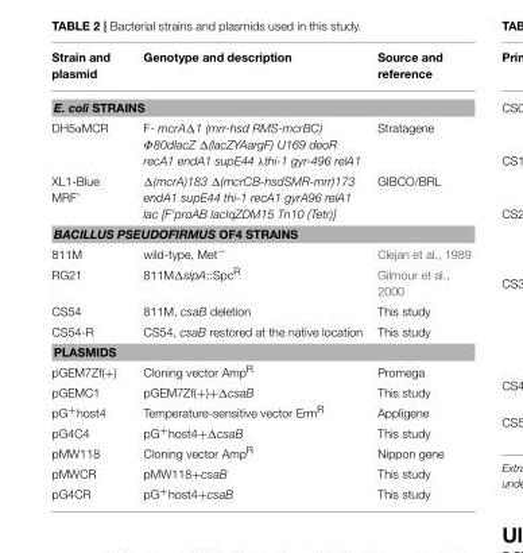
<table><thead><tr><td>Strain and plasmid</td><td>Genotype and description</td><td>Source and reference</td></tr></thead><tbody><tr><td colspan="3">E. coli STRAINS</td></tr><tr><td>DH5αMCR</td><td>F- mcrAΔ1 (mrr-hsd RMS-mcrBC) Φ80dlacZ Δ(lacZYAargF) U169 deoR recA1 endA1 supE44 λthi-1 gyr-496 relA1</td><td>Stratagene</td></tr><tr><td>XL1-Blue MRF’</td><td>Δ(mcrA)183 Δ(mcrCB-hsdSMR-mrr)173 endA1 supE44 thi-1 recA1 gyrA96 relA1 lac [F’proAB lacIqZDM15 Tn10 (Tetr)]</td><td>GIBCO/BRL</td></tr><tr><td colspan="3">BACILLUS PSEUDOFIRMUS OF4 STRAINS</td></tr><tr><td>811M</td><td>wild-type, Met<sup>−</sup></td><td>Clejan et al., 1989</td></tr><tr><td>RG21</td><td>811MΔslpA::Spc<sup>R</sup></td><td>Gilmour et al., 2000</td></tr><tr><td>CS54</td><td>811M, csaB deletion</td><td>This study</td></tr><tr><td>CS54-R</td><td>CS54, csaB restored at the native location</td><td>This study</td></tr><tr><td colspan="3">PLASMIDS</td></tr><tr><td>pGEM7Zf(+)</td><td>Cloning vector Amp<sup>R</sup></td><td>Promega</td></tr><tr><td>pGEMC1</td><td>pGEM7Zf(+)+ΔcsaB</td><td>This study</td></tr><tr><td>pG<sup>+</sup>host4</td><td>Temperature-sensitive vector Erm<sup>R</sup></td><td>Appligene</td></tr><tr><td>pG4C4</td><td>pG<sup>+</sup>host4+ΔcsaB</td><td>This study</td></tr><tr><td>pMW118</td><td>Cloning vector Amp<sup>R</sup></td><td>Nippon gene</td></tr><tr><td>pMWCR</td><td>pMW118+csaB</td><td>This study</td></tr><tr><td>pG4CR</td><td>pG<sup>+</sup>host4+csaB</td><td>This study</td></tr></tbody></table>